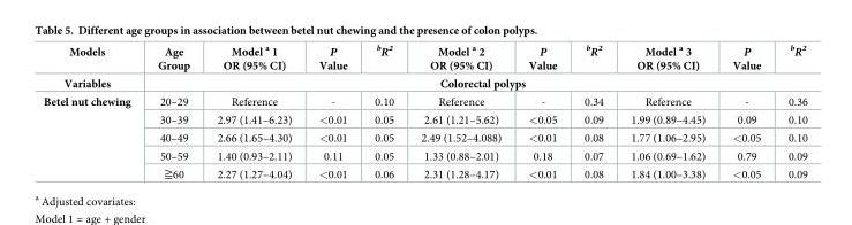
<table><thead><tr><td>Models</td><td>Age Group</td><td>Model <sup>a</sup> 1 OR (95% CI)</td><td>P Value</td><td><sup>b</sup>R<sup>2</sup></td><td>Model <sup>a</sup> 2 OR (95% CI)</td><td>P Value</td><td><sup>b</sup>R<sup>2</sup></td><td>Model <sup>a</sup> 3 OR (95% CI)</td><td>P Value</td><td><sup>b</sup>R<sup>2</sup></td></tr></thead><tbody><tr><td>Variables</td><td colspan="10">Colorectal polyps</td></tr><tr><td rowspan="5">Betel nut chewing</td><td>20–29</td><td>Reference</td><td>-</td><td>0.10</td><td>Reference</td><td>-</td><td>0.34</td><td>Reference</td><td>-</td><td>0.36</td></tr><tr><td>30–39</td><td>2.97 (1.41–6.23)</td><td>&lt;0.01</td><td>0.05</td><td>2.61 (1.21–5.62)</td><td>&lt;0.05</td><td>0.09</td><td>1.99 (0.89–4.45)</td><td>0.09</td><td>0.10</td></tr><tr><td>40–49</td><td>2.66 (1.65–4.30)</td><td>&lt;0.01</td><td>0.05</td><td>2.49 (1.52–4.088)</td><td>&lt;0.01</td><td>0.08</td><td>1.77 (1.06–2.95)</td><td>&lt;0.05</td><td>0.10</td></tr><tr><td>50–59</td><td>1.40 (0.93–2.11)</td><td>0.11</td><td>0.05</td><td>1.33 (0.88–2.01)</td><td>0.18</td><td>0.07</td><td>1.06 (0.69–1.62)</td><td>0.79</td><td>0.09</td></tr><tr><td>≧60</td><td>2.27 (1.27–4.04)</td><td>&lt;0.01</td><td>0.06</td><td>2.31 (1.28–4.17)</td><td>&lt;0.01</td><td>0.08</td><td>1.84 (1.00–3.38)</td><td>&lt;0.05</td><td>0.09</td></tr></tbody></table>